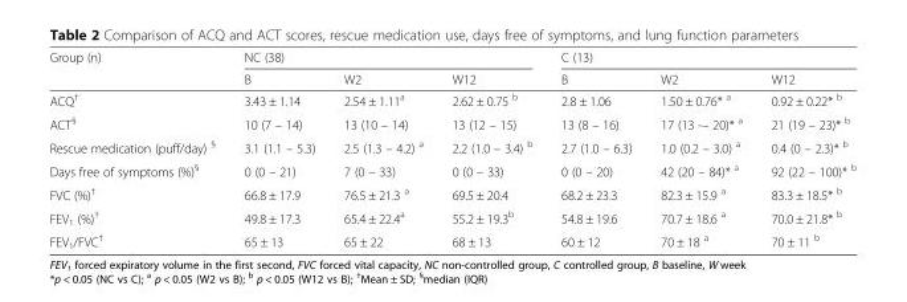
<table><thead><tr><td rowspan="2">Group (n)</td><td colspan="3">NC (38)</td><td colspan="3">C (13)</td></tr><tr><td>B</td><td>W2</td><td>W12</td><td>B</td><td>W2</td><td>W12</td></tr></thead><tbody><tr><td>ACQ<sup>†</sup></td><td>3.43 ± 1.14</td><td>2.54 ± 1.11<sup>a</sup></td><td>2.62 ± 0.75 <sup>b</sup></td><td>2.8 ± 1.06</td><td>1.50 ± 0.76* <sup>a</sup></td><td>0.92 ± 0.22* <sup>b</sup></td></tr><tr><td>ACT<sup>§</sup></td><td>10 (7 – 14)</td><td>13 (10 – 14)</td><td>13 (12 – 15)</td><td>13 (8 – 16)</td><td>17 (13 -– 20)* <sup>a</sup></td><td>21 (19 – 23)* <sup>b</sup></td></tr><tr><td>Rescue medication (puff/day) <sup>§</sup></td><td>3.1 (1.1 – 5.3)</td><td>2.5 (1.3 – 4.2) <sup>a</sup></td><td>2.2 (1.0 – 3.4) <sup>b</sup></td><td>2.7 (1.0 – 6.3)</td><td>1.0 (0.2 – 3.0) <sup>a</sup></td><td>0.4 (0 – 2.3)* <sup>b</sup></td></tr><tr><td>Days free of symptoms (%)<sup>§</sup></td><td>0 (0 – 21)</td><td>7 (0 – 33)</td><td>0 (0 – 33)</td><td>0 (0 – 20)</td><td>42 (20 – 84)* <sup>a</sup></td><td>92 (22 – 100)* <sup>b</sup></td></tr><tr><td>FVC (%)<sup>†</sup></td><td>66.8 ± 17.9</td><td>76.5 ± 21.3 <sup>a</sup></td><td>69.5 ± 20.4</td><td>68.2 ± 23.3</td><td>82.3 ± 15.9 <sup>a</sup></td><td>83.3 ± 18.5* <sup>b</sup></td></tr><tr><td>FEV<sub>1</sub> (%)<sup>†</sup></td><td>49.8 ± 17.3</td><td>65.4 ± 22.4<sup>a</sup></td><td>55.2 ± 19.3<sup>b</sup></td><td>54.8 ± 19.6</td><td>70.7 ± 18.6 <sup>a</sup></td><td>70.0 ± 21.8* <sup>b</sup></td></tr><tr><td>FEV<sub>1</sub>/FVC<sup>†</sup></td><td>65 ± 13</td><td>65 ± 22</td><td>68 ± 13</td><td>60 ± 12</td><td>70 ± 18 <sup>a</sup></td><td>70 ± 11 <sup>b</sup></td></tr></tbody></table>